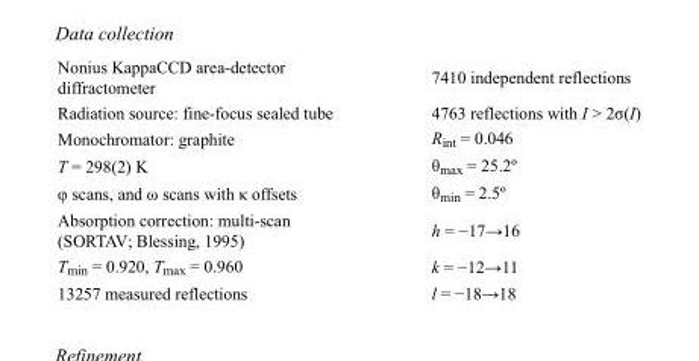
<table><tbody><tr><td>Nonius KappaCCD area-detector diffractometer</td><td>7410 independent reflections</td></tr><tr><td>Radiation source: fine-focus sealed tube</td><td>4763 reflections with I &gt; 2σ(I)</td></tr><tr><td>Monochromator: graphite</td><td>R<sub>int</sub> = 0.046</td></tr><tr><td>T = 298(2) K</td><td>θ<sub>max</sub> = 25.2º</td></tr><tr><td>φ scans, and ω scans with κ offsets</td><td>θ<sub>min</sub> = 2.5º</td></tr><tr><td>Absorption correction: multi-scan (SORTAV; Blessing, 1995)</td><td>h = −17→16</td></tr><tr><td>T<sub>min</sub> = 0.920, T<sub>max</sub> = 0.960</td><td>k = −12→11</td></tr><tr><td>13257 measured reflections</td><td>l = −18→18</td></tr></tbody></table>